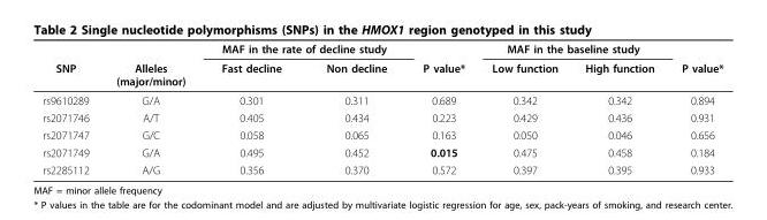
<table><thead><tr><td rowspan="2">SNP</td><td rowspan="2">Alleles (major/minor)</td><td colspan="2">MAF in the rate of decline study</td><td rowspan="2">P value*</td><td colspan="2">MAF in the baseline study</td><td rowspan="2">P value*</td></tr><tr><td>Fast decline</td><td>Non decline</td><td>Low function</td><td>High function</td></tr></thead><tbody><tr><td>rs9610289</td><td>G/A</td><td>0.301</td><td>0.311</td><td>0.689</td><td>0.342</td><td>0.342</td><td>0.894</td></tr><tr><td>rs2071746</td><td>A/T</td><td>0.405</td><td>0.434</td><td>0.223</td><td>0.429</td><td>0.436</td><td>0.931</td></tr><tr><td>rs2071747</td><td>G/C</td><td>0.058</td><td>0.065</td><td>0.163</td><td>0.050</td><td>0.046</td><td>0.656</td></tr><tr><td>rs2071749</td><td>G/A</td><td>0.495</td><td>0.452</td><td>0.015</td><td>0.475</td><td>0.458</td><td>0.184</td></tr><tr><td>rs2285112</td><td>A/G</td><td>0.356</td><td>0.370</td><td>0.572</td><td>0.397</td><td>0.395</td><td>0.933</td></tr></tbody></table>